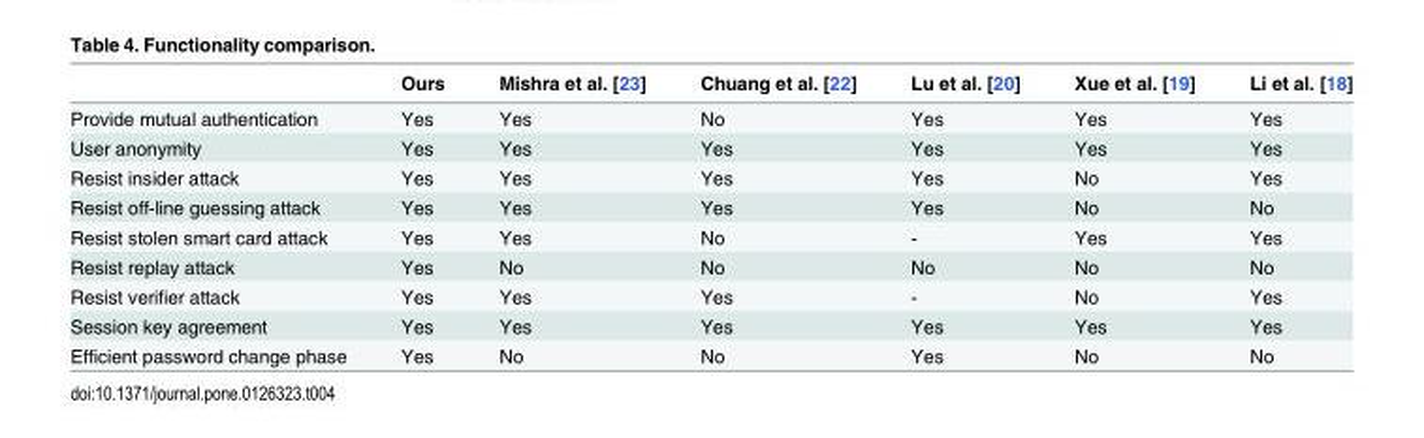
<table><thead><tr><td></td><td>Ours</td><td>Mishra et al. [23]</td><td>Chuang et al. [22]</td><td>Lu et al. [20]</td><td>Xue et al. [19]</td><td>Li et al. [18]</td></tr></thead><tbody><tr><td>Provide mutual authentication</td><td>Yes</td><td>Yes</td><td>No</td><td>Yes</td><td>Yes</td><td>Yes</td></tr><tr><td>User anonymity</td><td>Yes</td><td>Yes</td><td>Yes</td><td>Yes</td><td>Yes</td><td>Yes</td></tr><tr><td>Resist insider attack</td><td>Yes</td><td>Yes</td><td>Yes</td><td>Yes</td><td>No</td><td>Yes</td></tr><tr><td>Resist off-line guessing attack</td><td>Yes</td><td>Yes</td><td>Yes</td><td>Yes</td><td>No</td><td>No</td></tr><tr><td>Resist stolen smart card attack</td><td>Yes</td><td>Yes</td><td>No</td><td>-</td><td>Yes</td><td>Yes</td></tr><tr><td>Resist replay attack</td><td>Yes</td><td>No</td><td>No</td><td>No</td><td>No</td><td>No</td></tr><tr><td>Resist verifier attack</td><td>Yes</td><td>Yes</td><td>Yes</td><td>-</td><td>No</td><td>Yes</td></tr><tr><td>Session key agreement</td><td>Yes</td><td>Yes</td><td>Yes</td><td>Yes</td><td>Yes</td><td>Yes</td></tr><tr><td>Efficient password change phase</td><td>Yes</td><td>No</td><td>No</td><td>Yes</td><td>No</td><td>No</td></tr></tbody></table>